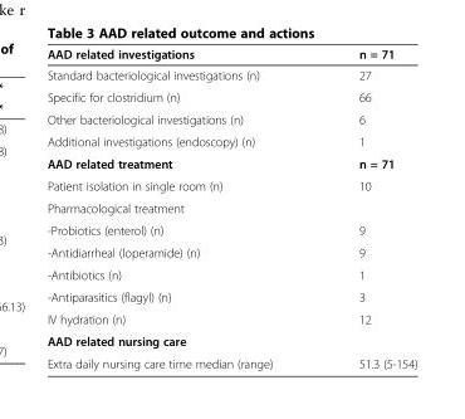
<table><thead><tr><td>AAD related investigations</td><td>n = 71</td></tr></thead><tbody><tr><td>Standard bacteriological investigations (n)</td><td>27</td></tr><tr><td>Specific for clostridium (n)</td><td>66</td></tr><tr><td>Other bacteriological investigations (n)</td><td>6</td></tr><tr><td>Additional investigations (endoscopy) (n)</td><td>1</td></tr><tr><td>AAD related treatment</td><td>n = 71</td></tr><tr><td>Patient isolation in single room (n)</td><td>10</td></tr><tr><td colspan="2">Pharmacological treatment</td></tr><tr><td>-Probiotics (enterol) (n)</td><td>9</td></tr><tr><td>-Antidiarrheal (loperamide) (n)</td><td>9</td></tr><tr><td>-Antibiotics (n)</td><td>1</td></tr><tr><td>-Antiparasitics (flagyl) (n)</td><td>3</td></tr><tr><td>IV hydration (n)</td><td>12</td></tr><tr><td colspan="2">AAD related nursing care</td></tr><tr><td>Extra daily nursing care time median (range)</td><td>51.3 (5-154)</td></tr></tbody></table>